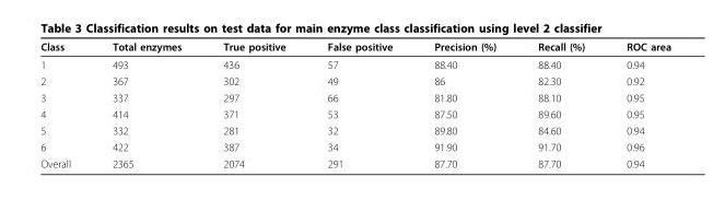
<table><thead><tr><td>Class</td><td>Total enzymes</td><td>True positive</td><td>False positive</td><td>Precision (%)</td><td>Recall (%)</td><td>ROC area</td></tr></thead><tbody><tr><td>1</td><td>493</td><td>436</td><td>57</td><td>88.40</td><td>88.40</td><td>0.94</td></tr><tr><td>2</td><td>367</td><td>302</td><td>49</td><td>86</td><td>82.30</td><td>0.92</td></tr><tr><td>3</td><td>337</td><td>297</td><td>66</td><td>81.80</td><td>88.10</td><td>0.95</td></tr><tr><td>4</td><td>414</td><td>371</td><td>53</td><td>87.50</td><td>89.60</td><td>0.95</td></tr><tr><td>5</td><td>332</td><td>281</td><td>32</td><td>89.80</td><td>84.60</td><td>0.94</td></tr><tr><td>6</td><td>422</td><td>387</td><td>34</td><td>91.90</td><td>91.70</td><td>0.96</td></tr><tr><td>Overall</td><td>2365</td><td>2074</td><td>291</td><td>87.70</td><td>87.70</td><td>0.94</td></tr></tbody></table>